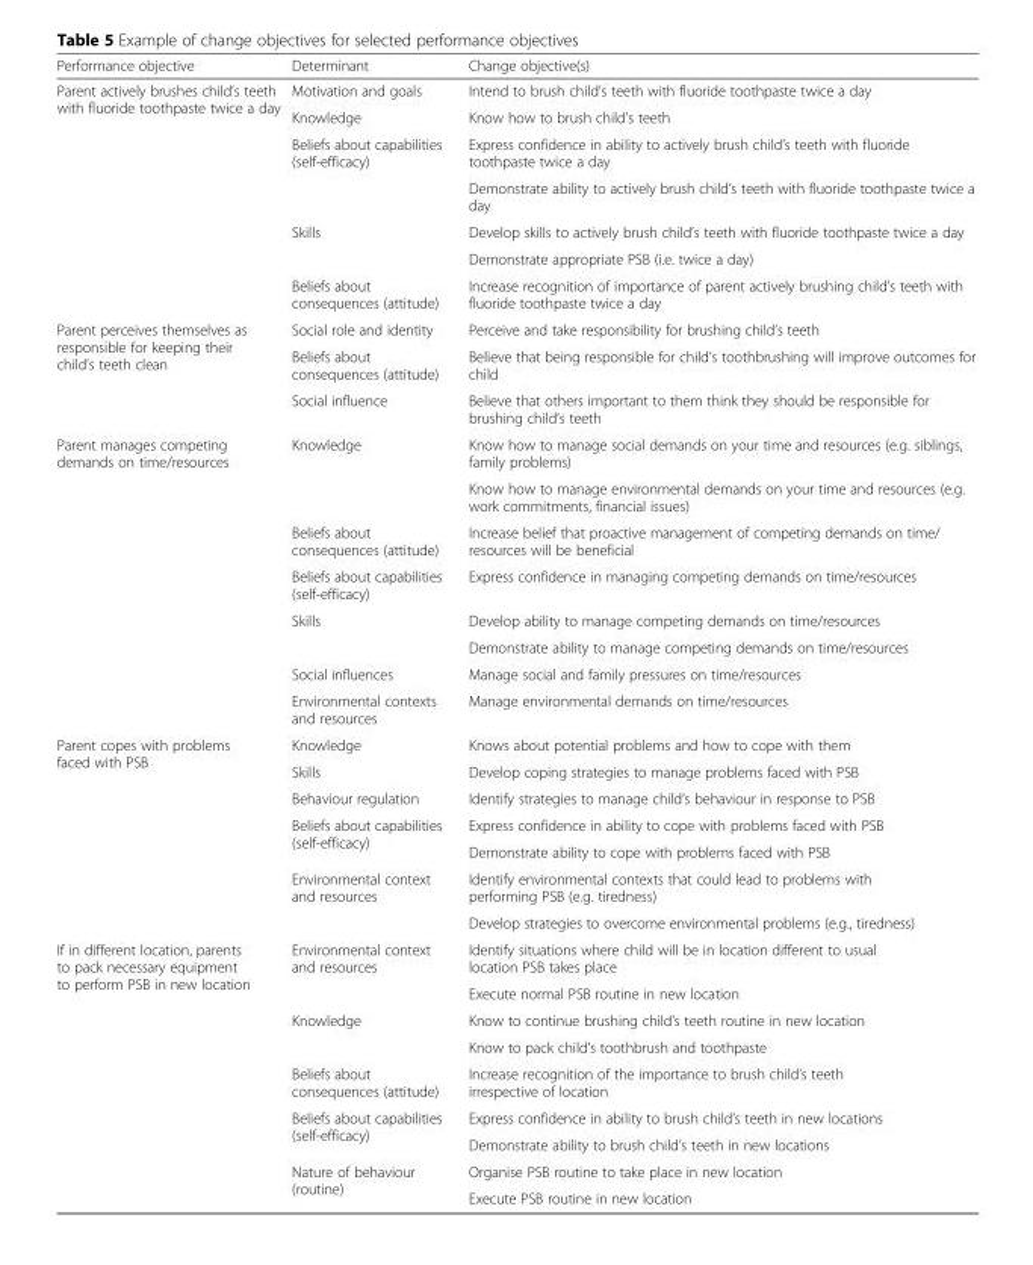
<table><thead><tr><td>Performance objective</td><td>Determinant</td><td>Change objective(s)</td></tr></thead><tbody><tr><td rowspan="7">Parent actively brushes child’s teeth with fluoride toothpaste twice a day</td><td>Motivation and goals</td><td>Intend to brush child’s teeth with fluoride toothpaste twice a day</td></tr><tr><td>Knowledge</td><td>Know how to brush child’s teeth</td></tr><tr><td rowspan="2">Beliefs about capabilities (self-efficacy)</td><td>Express confidence in ability to actively brush child’s teeth with fluoride toothpaste twice a day</td></tr><tr><td>Demonstrate ability to actively brush child’s teeth with fluoride toothpaste twice a day</td></tr><tr><td rowspan="2">Skills</td><td>Develop skills to actively brush child’s teeth with fluoride toothpaste twice a day</td></tr><tr><td>Demonstrate appropriate PSB (i.e. twice a day)</td></tr><tr><td>Beliefs about consequences (attitude)</td><td>Increase recognition of importance of parent actively brushing child’s teeth with fluoride toothpaste twice a day</td></tr><tr><td rowspan="3">Parent perceives themselves as responsible for keeping their child’s teeth clean</td><td>Social role and identity</td><td>Perceive and take responsibility for brushing child’s teeth</td></tr><tr><td>Beliefs about consequences (attitude)</td><td>Believe that being responsible for child’s toothbrushing will improve outcomes for child</td></tr><tr><td>Social influence</td><td>Believe that others important to them think they should be responsible for brushing child’s teeth</td></tr><tr><td rowspan="8">Parent manages competing demands on time/resources</td><td rowspan="2">Knowledge</td><td>Know how to manage social demands on your time and resources (e.g. siblings, family problems)</td></tr><tr><td>Know how to manage environmental demands on your time and resources (e.g. work commitments, financial issues)</td></tr><tr><td>Beliefs about consequences (attitude)</td><td>Increase belief that proactive management of competing demands on time/ resources will be beneficial</td></tr><tr><td>Beliefs about capabilities (self-efficacy)</td><td>Express confidence in managing competing demands on time/resources</td></tr><tr><td rowspan="2">Skills</td><td>Develop ability to manage competing demands on time/resources</td></tr><tr><td>Demonstrate ability to manage competing demands on time/resources</td></tr><tr><td>Social influences</td><td>Manage social and family pressures on time/resources</td></tr><tr><td>Environmental contexts and resources</td><td>Manage environmental demands on time/resources</td></tr><tr><td rowspan="7">Parent copes with problems faced with PSB</td><td>Knowledge</td><td>Knows about potential problems and how to cope with them</td></tr><tr><td>Skills</td><td>Develop coping strategies to manage problems faced with PSB</td></tr><tr><td>Behaviour regulation</td><td>Identify strategies to manage child’s behaviour in response to PSB</td></tr><tr><td rowspan="2">Beliefs about capabilities (self-efficacy)</td><td>Express confidence in ability to cope with problems faced with PSB</td></tr><tr><td>Demonstrate ability to cope with problems faced with PSB</td></tr><tr><td rowspan="2">Environmental context and resources</td><td>Identify environmental contexts that could lead to problems with performing PSB (e.g. tiredness)</td></tr><tr><td>Develop strategies to overcome environmental problems (e.g., tiredness)</td></tr><tr><td rowspan="9">If in different location, parents to pack necessary equipment to perform PSB in new location</td><td rowspan="2">Environmental context and resources</td><td>Identify situations where child will be in location different to usual location PSB takes place</td></tr><tr><td>Execute normal PSB routine in new location</td></tr><tr><td rowspan="2">Knowledge</td><td>Know to continue brushing child’s teeth routine in new location</td></tr><tr><td>Know to pack child’s toothbrush and toothpaste</td></tr><tr><td>Beliefs about consequences (attitude)</td><td>Increase recognition of the importance to brush child’s teeth irrespective of location</td></tr><tr><td rowspan="2">Beliefs about capabilities (self-efficacy)</td><td>Express confidence in ability to brush child’s teeth in new locations</td></tr><tr><td>Demonstrate ability to brush child’s teeth in new locations</td></tr><tr><td rowspan="2">Nature of behaviour (routine)</td><td>Organise PSB routine to take place in new location</td></tr><tr><td>Execute PSB routine in new location</td></tr></tbody></table>